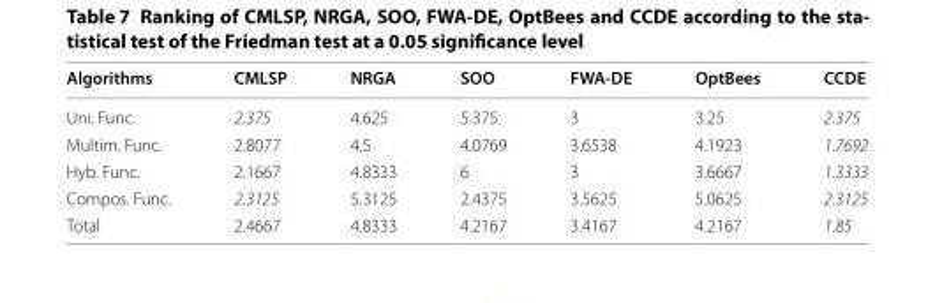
<table><thead><tr><td>Algorithms</td><td>CMLSP</td><td>NRGA</td><td>SOO</td><td>FWA‑DE</td><td>OptBees</td><td>CCDE</td></tr></thead><tbody><tr><td>Uni. Func.</td><td>2.375</td><td>4.625</td><td>5.375</td><td>3</td><td>3.25</td><td>2.375</td></tr><tr><td>Multim. Func.</td><td>2.8077</td><td>4.5</td><td>4.0769</td><td>3.6538</td><td>4.1923</td><td>1.7692</td></tr><tr><td>Hyb. Func.</td><td>2.1667</td><td>4.8333</td><td>6</td><td>3</td><td>3.6667</td><td>1.3333</td></tr><tr><td>Compos. Func.</td><td>2.3125</td><td>5.3125</td><td>2.4375</td><td>3.5625</td><td>5.0625</td><td>2.3125</td></tr><tr><td>Total</td><td>2.4667</td><td>4.8333</td><td>4.2167</td><td>3.4167</td><td>4.2167</td><td>1.85</td></tr></tbody></table>